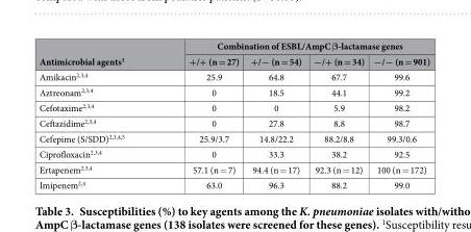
<table><thead><tr><td rowspan="2">Antimicrobial agents<sup>1</sup></td><td colspan="4">Combination of ESBL/AmpC β-lactamase genes</td></tr><tr><td>+/+ (n = 27)</td><td>+/− (n = 54)</td><td>−/+ (n = 34)</td><td>−/− (n = 901)</td></tr></thead><tbody><tr><td>Amikacin<sup>2</sup>,<sup>3</sup>,<sup>4</sup></td><td>25.9</td><td>64.8</td><td>67.7</td><td>99.6</td></tr><tr><td>Aztreonam<sup>2</sup>,<sup>3</sup>,<sup>4</sup></td><td>0</td><td>18.5</td><td>44.1</td><td>99.2</td></tr><tr><td>Cefotaxime<sup>2</sup>,<sup>3</sup>,<sup>4</sup></td><td>0</td><td>0</td><td>5.9</td><td>98.2</td></tr><tr><td>Ceftazidime<sup>2</sup>,<sup>3</sup>,<sup>4</sup></td><td>0</td><td>27.8</td><td>8.8</td><td>98.7</td></tr><tr><td>Cefepime (S/SDD)<sup>2</sup>,<sup>3</sup>,<sup>4</sup>,<sup>5</sup></td><td>25.9/3.7</td><td>14.8/22.2</td><td>88.2/8.8</td><td>99.3/0.6</td></tr><tr><td>Ciprofloxacin<sup>2</sup>,<sup>3</sup>,<sup>4</sup></td><td>0</td><td>33.3</td><td>38.2</td><td>92.5</td></tr><tr><td>Ertapenem<sup>2</sup>,<sup>3</sup>,<sup>4</sup></td><td>57.1 (n = 7)</td><td>94.4 (n = 17)</td><td>92.3 (n = 12)</td><td>100 (n = 172)</td></tr><tr><td>Imipenem<sup>2</sup>,<sup>4</sup></td><td>63.0</td><td>96.3</td><td>88.2</td><td>99.0</td></tr></tbody></table>